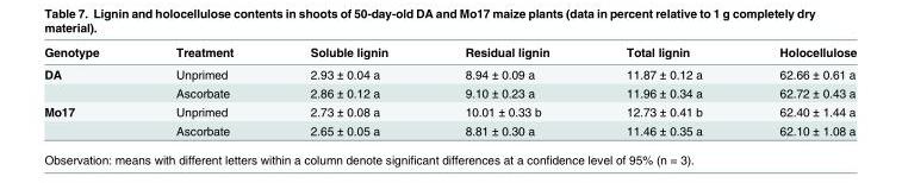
<table><thead><tr><td>Genotype</td><td>Treatment</td><td>Soluble lignin</td><td>Residual lignin</td><td>Total lignin</td><td>Holocellulose</td></tr></thead><tbody><tr><td rowspan="2">DA</td><td>Unprimed</td><td>2.93 ± 0.04 a</td><td>8.94 ± 0.09 a</td><td>11.87 ± 0.12 a</td><td>62.66 ± 0.61 a</td></tr><tr><td>Ascorbate</td><td>2.86 ± 0.12 a</td><td>9.10 ± 0.23 a</td><td>11.96 ± 0.34 a</td><td>62.72 ± 0.43 a</td></tr><tr><td rowspan="2">Mo17</td><td>Unprimed</td><td>2.73 ± 0.08 a</td><td>10.01 ± 0.33 b</td><td>12.73 ± 0.41 b</td><td>62.40 ± 1.44 a</td></tr><tr><td>Ascorbate</td><td>2.65 ± 0.05 a</td><td>8.81 ± 0.30 a</td><td>11.46 ± 0.35 a</td><td>62.10 ± 1.08 a</td></tr></tbody></table>